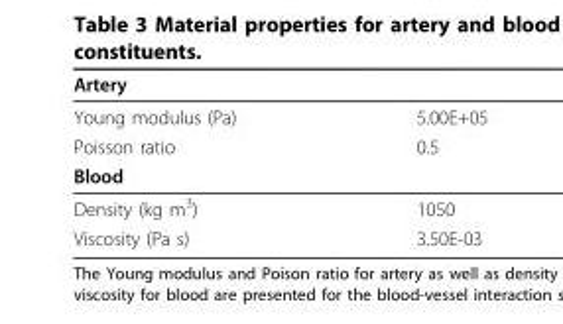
<table><thead><tr><td colspan="2">Artery</td></tr><tr><td>Young modulus (Pa)</td><td>5.00E+05</td></tr></thead><tbody><tr><td>Poisson ratio</td><td>0.5</td></tr><tr><td colspan="2">Blood</td></tr><tr><td>Density (kg m<sup>3</sup>)</td><td>1050</td></tr><tr><td>Viscosity (Pa s)</td><td>3.50E-03</td></tr></tbody></table>